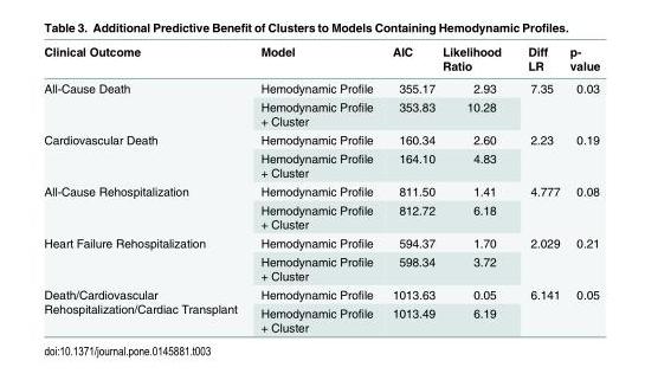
<table><thead><tr><td>Clinical Outcome</td><td>Model</td><td>AIC</td><td>Likelihood Ratio</td><td>Diff LR</td><td>p- value</td></tr></thead><tbody><tr><td rowspan="2">All-Cause Death</td><td>Hemodynamic Profile</td><td>355.17</td><td>2.93</td><td rowspan="2">7.35</td><td rowspan="2">0.03</td></tr><tr><td>Hemodynamic Profile + Cluster</td><td>353.83</td><td>10.28</td></tr><tr><td rowspan="2">Cardiovascular Death</td><td>Hemodynamic Profile</td><td>160.34</td><td>2.60</td><td rowspan="2">2.23</td><td rowspan="2">0.19</td></tr><tr><td>Hemodynamic Profile + Cluster</td><td>164.10</td><td>4.83</td></tr><tr><td rowspan="2">All-Cause Rehospitalization</td><td>Hemodynamic Profile</td><td>811.50</td><td>1.41</td><td rowspan="2">4.777</td><td rowspan="2">0.08</td></tr><tr><td>Hemodynamic Profile + Cluster</td><td>812.72</td><td>6.18</td></tr><tr><td rowspan="2">Heart Failure Rehospitalization</td><td>Hemodynamic Profile</td><td>594.37</td><td>1.70</td><td rowspan="2">2.029</td><td rowspan="2">0.21</td></tr><tr><td>Hemodynamic Profile + Cluster</td><td>598.34</td><td>3.72</td></tr><tr><td rowspan="2">Death/Cardiovascular Rehospitalization/Cardiac Transplant</td><td>Hemodynamic Profile</td><td>1013.63</td><td>0.05</td><td rowspan="2">6.141</td><td rowspan="2">0.05</td></tr><tr><td>Hemodynamic Profile + Cluster</td><td>1013.49</td><td>6.19</td></tr></tbody></table>